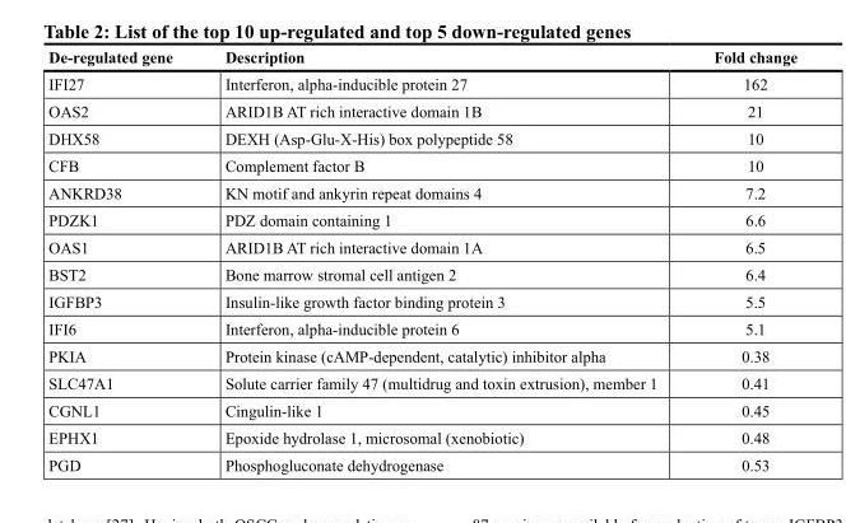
<table><thead><tr><td>De-regulated gene</td><td>Description</td><td>Fold change</td></tr></thead><tbody><tr><td>IFI27</td><td>Interferon, alpha-inducible protein 27</td><td>162</td></tr><tr><td>OAS2</td><td>ARID1B AT rich interactive domain 1B</td><td>21</td></tr><tr><td>DHX58</td><td>DEXH (Asp-Glu-X-His) box polypeptide 58</td><td>10</td></tr><tr><td>CFB</td><td>Complement factor B</td><td>10</td></tr><tr><td>ANKRD38</td><td>KN motif and ankyrin repeat domains 4</td><td>7.2</td></tr><tr><td>PDZK1</td><td>PDZ domain containing 1</td><td>6.6</td></tr><tr><td>OAS1</td><td>ARID1B AT rich interactive domain 1A</td><td>6.5</td></tr><tr><td>BST2</td><td>Bone marrow stromal cell antigen 2</td><td>6.4</td></tr><tr><td>IGFBP3</td><td>Insulin-like growth factor binding protein 3</td><td>5.5</td></tr><tr><td>IFI6</td><td>Interferon, alpha-inducible protein 6</td><td>5.1</td></tr><tr><td>PKIA</td><td>Protein kinase (cAMP-dependent, catalytic) inhibitor alpha</td><td>0.38</td></tr><tr><td>SLC47A1</td><td>Solute carrier family 47 (multidrug and toxin extrusion), member 1</td><td>0.41</td></tr><tr><td>CGNL1</td><td>Cingulin-like 1</td><td>0.45</td></tr><tr><td>EPHX1</td><td>Epoxide hydrolase 1, microsomal (xenobiotic)</td><td>0.48</td></tr><tr><td>PGD</td><td>Phosphogluconate dehydrogenase</td><td>0.53</td></tr></tbody></table>